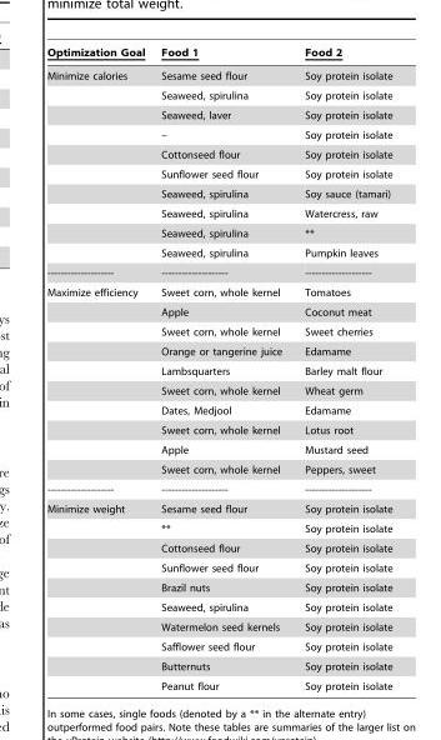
<table><thead><tr><td>Optimization Goal</td><td>Food 1</td><td>Food 2</td></tr></thead><tbody><tr><td rowspan="10">Minimize calories</td><td>Sesame seed flour</td><td>Soy protein isolate</td></tr><tr><td>Seaweed, spirulina</td><td>Soy protein isolate</td></tr><tr><td>Seaweed, laver</td><td>Soy protein isolate</td></tr><tr><td>–</td><td>Soy protein isolate</td></tr><tr><td>Cottonseed flour</td><td>Soy protein isolate</td></tr><tr><td>Sunflower seed flour</td><td>Soy protein isolate</td></tr><tr><td>Seaweed, spirulina</td><td>Soy sauce (tamari)</td></tr><tr><td>Seaweed, spirulina</td><td>Watercress, raw</td></tr><tr><td>Seaweed, spirulina</td><td>**</td></tr><tr><td>Seaweed, spirulina</td><td>Pumpkin leaves</td></tr><tr><td>--------------------</td><td>--------------------</td><td>--------------------</td></tr><tr><td rowspan="10">Maximize efficiency</td><td>Sweet corn, whole kernel</td><td>Tomatoes</td></tr><tr><td>Apple</td><td>Coconut meat</td></tr><tr><td>Sweet corn, whole kernel</td><td>Sweet cherries</td></tr><tr><td>Orange or tangerine juice</td><td>Edamame</td></tr><tr><td>Lambsquarters</td><td>Barley malt flour</td></tr><tr><td>Sweet corn, whole kernel</td><td>Wheat germ</td></tr><tr><td>Dates, Medjool</td><td>Edamame</td></tr><tr><td>Sweet corn, whole kernel</td><td>Lotus root</td></tr><tr><td>Apple</td><td>Mustard seed</td></tr><tr><td>Sweet corn, whole kernel</td><td>Peppers, sweet</td></tr><tr><td>--------------------</td><td>--------------------</td><td>--------------------</td></tr><tr><td rowspan="10">Minimize weight</td><td>Sesame seed flour</td><td>Soy protein isolate</td></tr><tr><td>**</td><td>Soy protein isolate</td></tr><tr><td>Cottonseed flour</td><td>Soy protein isolate</td></tr><tr><td>Sunflower seed flour</td><td>Soy protein isolate</td></tr><tr><td>Brazil nuts</td><td>Soy protein isolate</td></tr><tr><td>Seaweed, spirulina</td><td>Soy protein isolate</td></tr><tr><td>Watermelon seed kernels</td><td>Soy protein isolate</td></tr><tr><td>Safflower seed flour</td><td>Soy protein isolate</td></tr><tr><td>Butternuts</td><td>Soy protein isolate</td></tr><tr><td>Peanut flour</td><td>Soy protein isolate</td></tr></tbody></table>